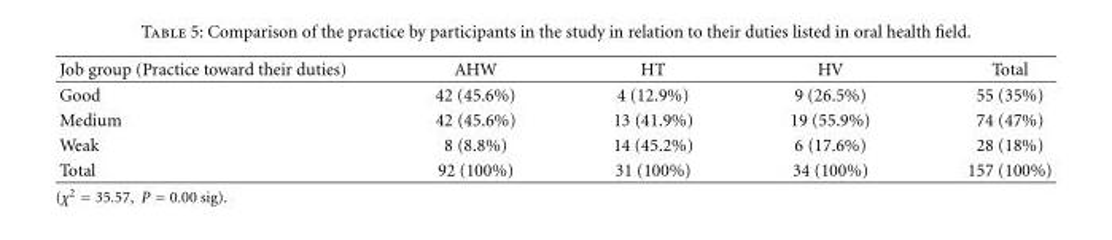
<table><thead><tr><td>Job group (Practice toward their duties)</td><td>AHW</td><td>HT</td><td>HV</td><td>Total</td></tr></thead><tbody><tr><td>Good</td><td>42 (45.6%)</td><td>4 (12.9%)</td><td>9 (26.5%)</td><td>55 (35%)</td></tr><tr><td>Medium</td><td>42 (45.6%)</td><td>13 (41.9%)</td><td>19 (55.9%)</td><td>74 (47%)</td></tr><tr><td>Weak</td><td>8 (8.8%)</td><td>14 (45.2%)</td><td>6 (17.6%)</td><td>28 (18%)</td></tr><tr><td>Total</td><td>92 (100%)</td><td>31 (100%)</td><td>34 (100%)</td><td>157 (100%)</td></tr></tbody></table>